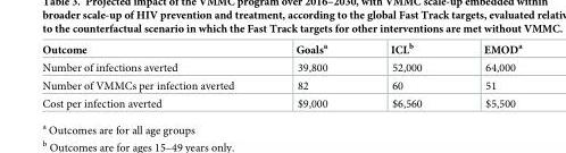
<table><thead><tr><td>Outcome</td><td>Goals<sup>a</sup></td><td>ICL<sup>b</sup></td><td>EMOD<sup>a</sup></td></tr></thead><tbody><tr><td>Number of infections averted</td><td>39,800</td><td>52,000</td><td>64,000</td></tr><tr><td>Number of VMMCs per infection averted</td><td>82</td><td>60</td><td>51</td></tr><tr><td>Cost per infection averted</td><td>$9,000</td><td>$6,560</td><td>$5,500</td></tr></tbody></table>